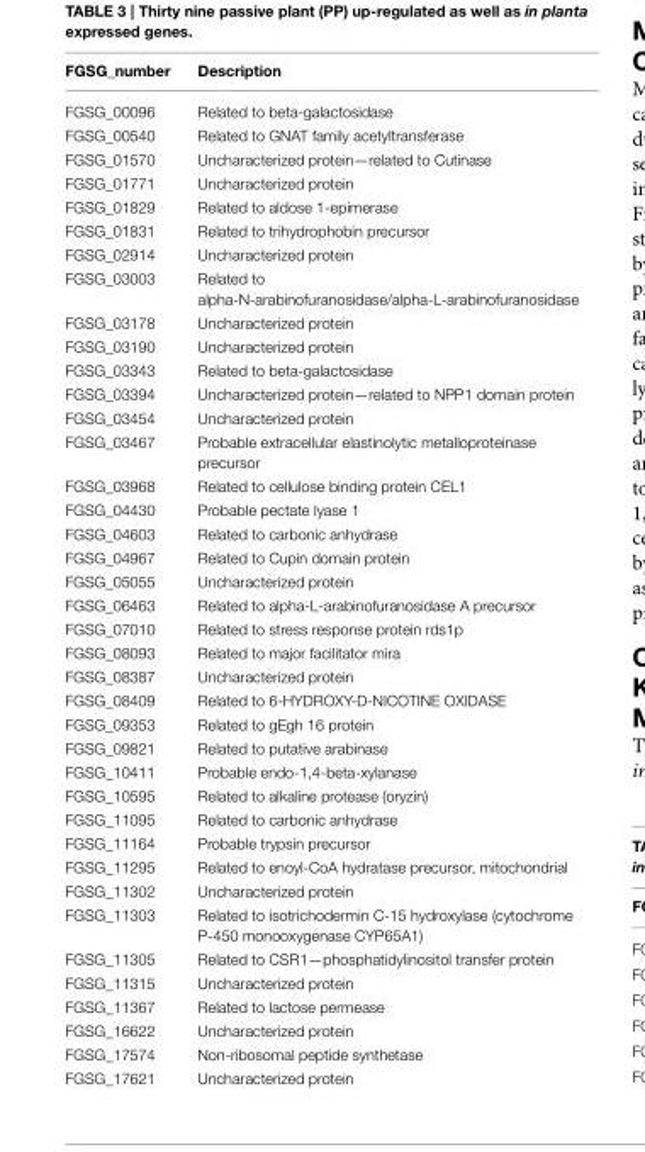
<table><thead><tr><td>FGSG_number</td><td>Description</td></tr></thead><tbody><tr><td>FGSG_00096</td><td>Related to beta-galactosidase</td></tr><tr><td>FGSG_00540</td><td>Related to GNAT family acetyltransferase</td></tr><tr><td>FGSG_01570</td><td>Uncharacterized protein—related to Cutinase</td></tr><tr><td>FGSG_01771</td><td>Uncharacterized protein</td></tr><tr><td>FGSG_01829</td><td>Related to aldose 1-epimerase</td></tr><tr><td>FGSG_01831</td><td>Related to trihydrophobin precursor</td></tr><tr><td>FGSG_02914</td><td>Uncharacterized protein</td></tr><tr><td>FGSG_03003</td><td>Related to alpha-N-arabinofuranosidase/alpha-L-arabinofuranosidase</td></tr><tr><td>FGSG_03178</td><td>Uncharacterized protein</td></tr><tr><td>FGSG_03190</td><td>Uncharacterized protein</td></tr><tr><td>FGSG_03343</td><td>Related to beta-galactosidase</td></tr><tr><td>FGSG_03394</td><td>Uncharacterized protein—related to NPP1 domain protein</td></tr><tr><td>FGSG_03454</td><td>Uncharacterized protein</td></tr><tr><td>FGSG_03467</td><td>Probable extracellular elastinolytic metalloproteinase precursor</td></tr><tr><td>FGSG_03968</td><td>Related to cellulose binding protein CEL1</td></tr><tr><td>FGSG_04430</td><td>Probable pectate lyase 1</td></tr><tr><td>FGSG_04603</td><td>Related to carbonic anhydrase</td></tr><tr><td>FGSG_04967</td><td>Related to Cupin domain protein</td></tr><tr><td>FGSG_05055</td><td>Uncharacterized protein</td></tr><tr><td>FGSG_06463</td><td>Related to alpha-L-arabinofuranosidase A precursor</td></tr><tr><td>FGSG_07010</td><td>Related to stress response protein rds1p</td></tr><tr><td>FGSG_08093</td><td>Related to major facilitator mira</td></tr><tr><td>FGSG_08387</td><td>Uncharacterized protein</td></tr><tr><td>FGSG_08409</td><td>Related to 6-HYDROXY-D-NICOTINE OXIDASE</td></tr><tr><td>FGSG_09353</td><td>Related to gEgh 16 protein</td></tr><tr><td>FGSG_09821</td><td>Related to putative arabinase</td></tr><tr><td>FGSG_10411</td><td>Probable endo-1,4-beta-xylanase</td></tr><tr><td>FGSG_10595</td><td>Related to alkaline protease (oryzin)</td></tr><tr><td>FGSG_11095</td><td>Related to carbonic anhydrase</td></tr><tr><td>FGSG_11164</td><td>Probable trypsin precursor</td></tr><tr><td>FGSG_11295</td><td>Related to enoyl-CoA hydratase precursor, mitochondrial</td></tr><tr><td>FGSG_11302</td><td>Uncharacterized protein</td></tr><tr><td>FGSG_11303</td><td>Related to isotrichodermin C-15 hydroxylase (cytochrome P-450 monooxygenase CYP65A1)</td></tr><tr><td>FGSG_11305</td><td>Related to CSR1—phosphatidylinositol transfer protein</td></tr><tr><td>FGSG_11315</td><td>Uncharacterized protein</td></tr><tr><td>FGSG_11367</td><td>Related to lactose permease</td></tr><tr><td>FGSG_16622</td><td>Uncharacterized protein</td></tr><tr><td>FGSG_17574</td><td>Non-ribosomal peptide synthetase</td></tr><tr><td>FGSG_17621</td><td>Uncharacterized protein</td></tr></tbody></table>